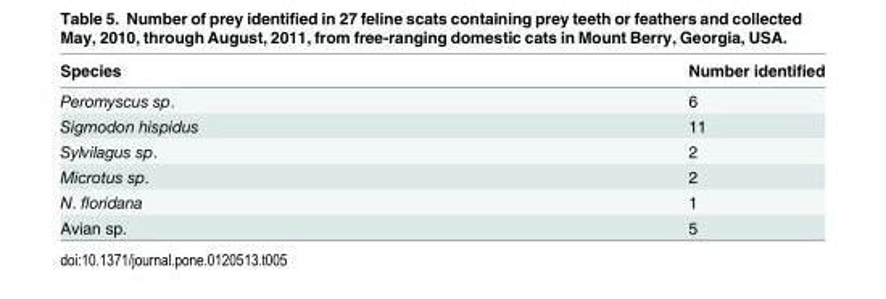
<table><thead><tr><td>Species</td><td>Number identified</td></tr></thead><tbody><tr><td>Peromyscus sp.</td><td>6</td></tr><tr><td>Sigmodon hispidus</td><td>11</td></tr><tr><td>Sylvilagus sp.</td><td>2</td></tr><tr><td>Microtus sp.</td><td>2</td></tr><tr><td>N. floridana</td><td>1</td></tr><tr><td>Avian sp.</td><td>5</td></tr></tbody></table>